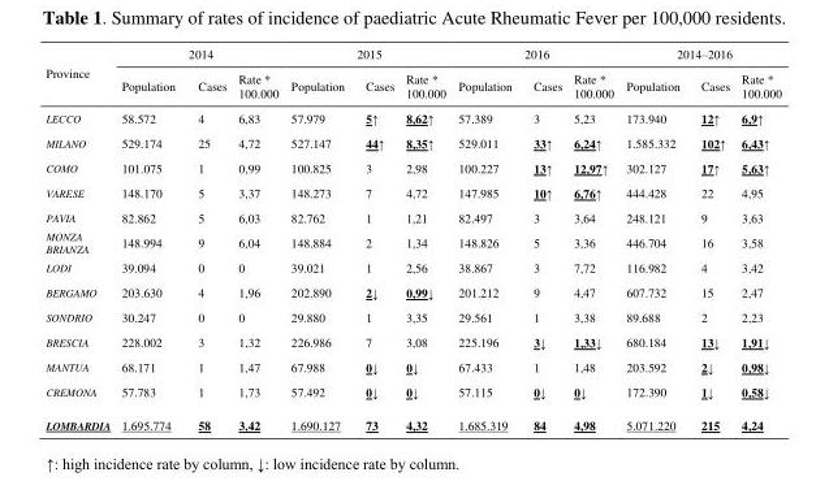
<table><thead><tr><td rowspan="2">Province</td><td colspan="3">2014</td><td colspan="3">2015</td><td colspan="3">2016</td><td colspan="3">2014–2016</td></tr><tr><td>Population</td><td>Cases</td><td>Rate * 100.000</td><td>Population</td><td>Cases</td><td>Rate * 100.000</td><td>Population</td><td>Cases</td><td>Rate * 100.000</td><td>Population</td><td>Cases</td><td>Rate * 100.000</td></tr></thead><tbody><tr><td>LECCO</td><td>58.572</td><td>4</td><td>6,83</td><td>57.979</td><td>5↑</td><td>8,62↑</td><td>57.389</td><td>3</td><td>5,23</td><td>173.940</td><td>12↑</td><td>6,9↑</td></tr><tr><td>MILANO</td><td>529.174</td><td>25</td><td>4,72</td><td>527.147</td><td>44↑</td><td>8,35↑</td><td>529.011</td><td>33↑</td><td>6,24↑</td><td>1.585.332</td><td>102↑</td><td>6,43↑</td></tr><tr><td>COMO</td><td>101.075</td><td>1</td><td>0,99</td><td>100.825</td><td>3</td><td>2,98</td><td>100.227</td><td>13↑</td><td>12,97↑</td><td>302.127</td><td>17↑</td><td>5,63↑</td></tr><tr><td>VARESE</td><td>148.170</td><td>5</td><td>3,37</td><td>148.273</td><td>7</td><td>4,72</td><td>147.985</td><td>10↑</td><td>6,76↑</td><td>444.428</td><td>22</td><td>4,95</td></tr><tr><td>PAVIA</td><td>82.862</td><td>5</td><td>6,03</td><td>82.762</td><td>1</td><td>1,21</td><td>82.497</td><td>3</td><td>3,64</td><td>248.121</td><td>9</td><td>3,63</td></tr><tr><td>MONZA BRIANZA</td><td>148.994</td><td>9</td><td>6,04</td><td>148.884</td><td>2</td><td>1,34</td><td>148.826</td><td>5</td><td>3,36</td><td>446.704</td><td>16</td><td>3,58</td></tr><tr><td>LODI</td><td>39.094</td><td>0</td><td>0</td><td>39.021</td><td>1</td><td>2,56</td><td>38.867</td><td>3</td><td>7,72</td><td>116.982</td><td>4</td><td>3,42</td></tr><tr><td>BERGAMO</td><td>203.630</td><td>4</td><td>1,96</td><td>202.890</td><td>2↓</td><td>0,99↓</td><td>201.212</td><td>9</td><td>4,47</td><td>607.732</td><td>15</td><td>2,47</td></tr><tr><td>SONDRIO</td><td>30.247</td><td>0</td><td>0</td><td>29.880</td><td>1</td><td>3,35</td><td>29.561</td><td>1</td><td>3,38</td><td>89.688</td><td>2</td><td>2,23</td></tr><tr><td>BRESCIA</td><td>228.002</td><td>3</td><td>1,32</td><td>226.986</td><td>7</td><td>3,08</td><td>225.196</td><td>3↓</td><td>1,33↓</td><td>680.184</td><td>13↓</td><td>1,91↓</td></tr><tr><td>MANTUA</td><td>68.171</td><td>1</td><td>1,47</td><td>67.988</td><td>0↓</td><td>0↓</td><td>67.433</td><td>1</td><td>1,48</td><td>203.592</td><td>2↓</td><td>0,98↓</td></tr><tr><td>CREMONA</td><td>57.783</td><td>1</td><td>1,73</td><td>57.492</td><td>0↓</td><td>0↓</td><td>57.115</td><td>0↓</td><td>0↓</td><td>172.390</td><td>1↓</td><td>0,58↓</td></tr><tr><td>LOMBARDIA</td><td>1.695.774</td><td>58</td><td>3,42</td><td>1.690.127</td><td>73</td><td>4,32</td><td>1.685.319</td><td>84</td><td>4,98</td><td>5.071.220</td><td>215</td><td>4,24</td></tr></tbody></table>